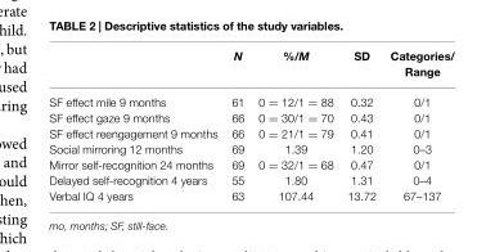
<table><thead><tr><td></td><td>N</td><td>%/M</td><td>SD</td><td>Categories/ Range</td></tr></thead><tbody><tr><td>SF effect mile 9 months</td><td>61</td><td>0 = 12/1 = 88</td><td>0.32</td><td>0/1</td></tr><tr><td>SF effect gaze 9 months</td><td>66</td><td>0 = 30/1 = 70</td><td>0.43</td><td>0/1</td></tr><tr><td>SF effect reengagement 9 months</td><td>66</td><td>0 = 21/1 = 79</td><td>0.41</td><td>0/1</td></tr><tr><td>Social mirroring 12 months</td><td>69</td><td>1.39</td><td>1.20</td><td>0–3</td></tr><tr><td>Mirror self-recognition 24 months</td><td>69</td><td>0 = 32/1 = 68</td><td>0.47</td><td>0/1</td></tr><tr><td>Delayed self-recognition 4 years</td><td>55</td><td>1.80</td><td>1.31</td><td>0–4</td></tr><tr><td>Verbal IQ 4 years</td><td>63</td><td>107.44</td><td>13.72</td><td>67–137</td></tr></tbody></table>